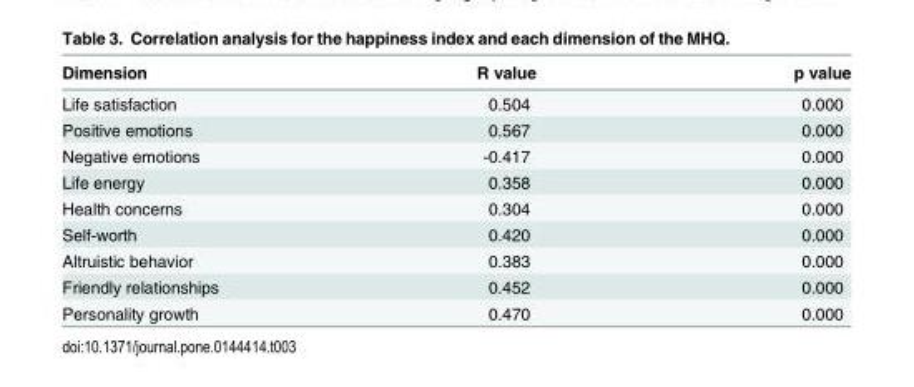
<table><thead><tr><td>Dimension</td><td>R value</td><td>p value</td></tr></thead><tbody><tr><td>Life satisfaction</td><td>0.504</td><td>0.000</td></tr><tr><td>Positive emotions</td><td>0.567</td><td>0.000</td></tr><tr><td>Negative emotions</td><td>-0.417</td><td>0.000</td></tr><tr><td>Life energy</td><td>0.358</td><td>0.000</td></tr><tr><td>Health concerns</td><td>0.304</td><td>0.000</td></tr><tr><td>Self-worth</td><td>0.420</td><td>0.000</td></tr><tr><td>Altruistic behavior</td><td>0.383</td><td>0.000</td></tr><tr><td>Friendly relationships</td><td>0.452</td><td>0.000</td></tr><tr><td>Personality growth</td><td>0.470</td><td>0.000</td></tr></tbody></table>